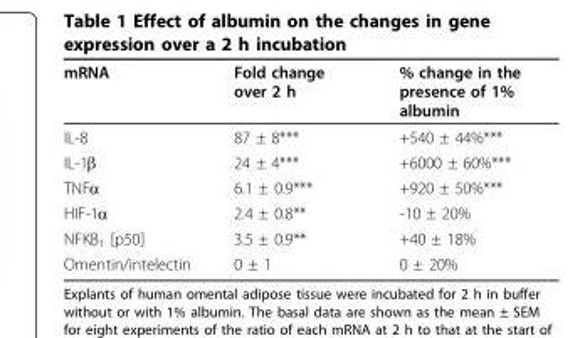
<table><thead><tr><td>mRNA</td><td>Fold change over 2 h</td><td>% change in the presence of 1% albumin</td></tr></thead><tbody><tr><td>IL-8</td><td>87 ± 8***</td><td>+540 ± 44%***</td></tr><tr><td>IL-1β</td><td>24 ± 4***</td><td>+6000 ± 60%***</td></tr><tr><td>TNFα</td><td>6.1 ± 0.9***</td><td>+920 ± 50%***</td></tr><tr><td>HIF-1α</td><td>2.4 ± 0.8**</td><td>-10 ± 20%</td></tr><tr><td>NFKB<sub>1</sub> [p50]</td><td>3.5 ± 0.9**</td><td>+40 ± 18%</td></tr><tr><td>Omentin/intelectin</td><td>0 ± 1</td><td>0 ± 20%</td></tr></tbody></table>